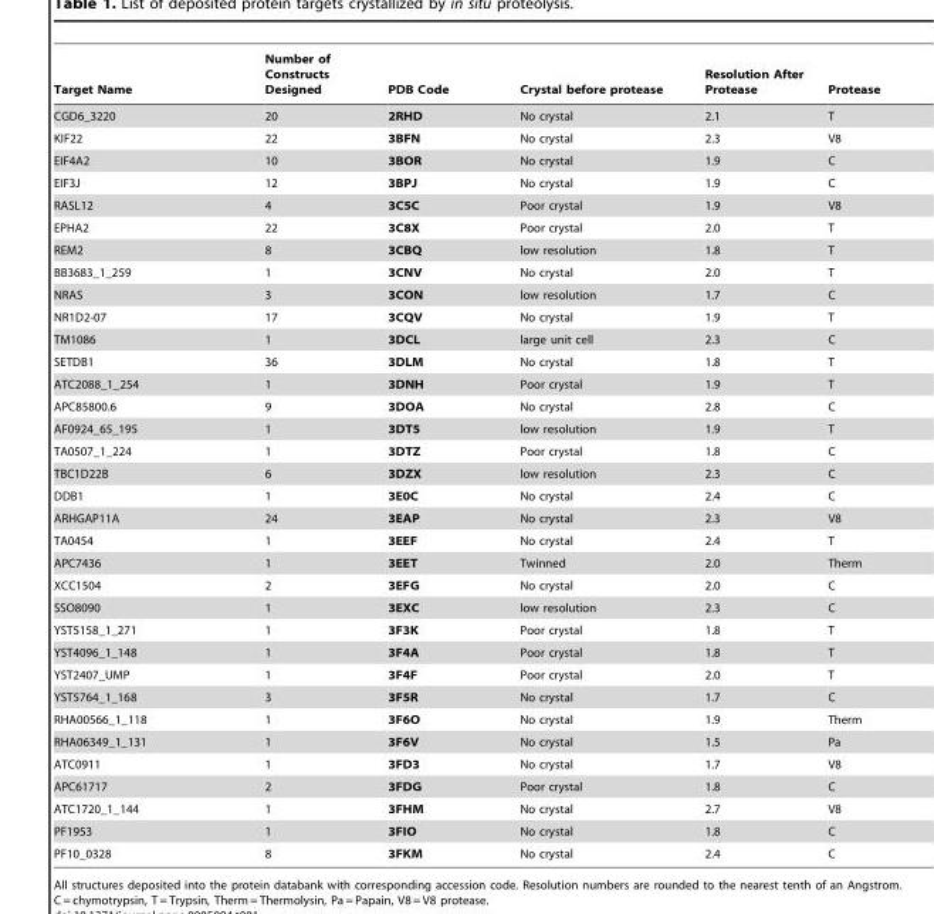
<table><thead><tr><td>Target Name</td><td>Number of Constructs Designed</td><td>PDB Code</td><td>Crystal before protease</td><td>Resolution After Protease</td><td>Protease</td></tr></thead><tbody><tr><td>CGD6_3220</td><td>20</td><td>2RHD</td><td>No crystal</td><td>2.1</td><td>T</td></tr><tr><td>KIF22</td><td>22</td><td>3BFN</td><td>No crystal</td><td>2.3</td><td>V8</td></tr><tr><td>EIF4A2</td><td>10</td><td>3BOR</td><td>No crystal</td><td>1.9</td><td>C</td></tr><tr><td>EIF3J</td><td>12</td><td>3BPJ</td><td>No crystal</td><td>1.9</td><td>C</td></tr><tr><td>RASL12</td><td>4</td><td>3C5C</td><td>Poor crystal</td><td>1.9</td><td>V8</td></tr><tr><td>EPHA2</td><td>22</td><td>3C8X</td><td>Poor crystal</td><td>2.0</td><td>T</td></tr><tr><td>REM2</td><td>8</td><td>3CBQ</td><td>low resolution</td><td>1.8</td><td>T</td></tr><tr><td>BB3683_1_259</td><td>1</td><td>3CNV</td><td>No crystal</td><td>2.0</td><td>T</td></tr><tr><td>NRAS</td><td>3</td><td>3CON</td><td>low resolution</td><td>1.7</td><td>C</td></tr><tr><td>NR1D2-07</td><td>17</td><td>3CQV</td><td>No crystal</td><td>1.9</td><td>T</td></tr><tr><td>TM1086</td><td>1</td><td>3DCL</td><td>large unit cell</td><td>2.3</td><td>C</td></tr><tr><td>SETDB1</td><td>36</td><td>3DLM</td><td>No crystal</td><td>1.8</td><td>T</td></tr><tr><td>ATC2088_1_254</td><td>1</td><td>3DNH</td><td>Poor crystal</td><td>1.9</td><td>T</td></tr><tr><td>APC85800.6</td><td>9</td><td>3DOA</td><td>No crystal</td><td>2.8</td><td>C</td></tr><tr><td>AF0924_65_195</td><td>1</td><td>3DT5</td><td>low resolution</td><td>1.9</td><td>T</td></tr><tr><td>TA0507_1_224</td><td>1</td><td>3DTZ</td><td>Poor crystal</td><td>1.8</td><td>C</td></tr><tr><td>TBC1D22B</td><td>6</td><td>3DZX</td><td>low resolution</td><td>2.3</td><td>C</td></tr><tr><td>DDB1</td><td>1</td><td>3E0C</td><td>No crystal</td><td>2.4</td><td>C</td></tr><tr><td>ARHGAP11A</td><td>24</td><td>3EAP</td><td>No crystal</td><td>2.3</td><td>V8</td></tr><tr><td>TA0454</td><td>1</td><td>3EEF</td><td>No crystal</td><td>2.4</td><td>T</td></tr><tr><td>APC7436</td><td>1</td><td>3EET</td><td>Twinned</td><td>2.0</td><td>Therm</td></tr><tr><td>XCC1504</td><td>2</td><td>3EFG</td><td>No crystal</td><td>2.0</td><td>C</td></tr><tr><td>SSO8090</td><td>1</td><td>3EXC</td><td>low resolution</td><td>2.3</td><td>C</td></tr><tr><td>YST5158_1_271</td><td>1</td><td>3F3K</td><td>Poor crystal</td><td>1.8</td><td>T</td></tr><tr><td>YST4096_1_148</td><td>1</td><td>3F4A</td><td>Poor crystal</td><td>1.8</td><td>T</td></tr><tr><td>YST2407_UMP</td><td>1</td><td>3F4F</td><td>Poor crystal</td><td>2.0</td><td>T</td></tr><tr><td>YST5764_1_168</td><td>3</td><td>3F5R</td><td>No crystal</td><td>1.7</td><td>C</td></tr><tr><td>RHA00566_1_118</td><td>1</td><td>3F6O</td><td>No crystal</td><td>1.9</td><td>Therm</td></tr><tr><td>RHA06349_1_131</td><td>1</td><td>3F6V</td><td>No crystal</td><td>1.5</td><td>Pa</td></tr><tr><td>ATC0911</td><td>1</td><td>3FD3</td><td>No crystal</td><td>1.7</td><td>V8</td></tr><tr><td>APC61717</td><td>2</td><td>3FDG</td><td>Poor crystal</td><td>1.8</td><td>C</td></tr><tr><td>ATC1720_1_144</td><td>1</td><td>3FHM</td><td>No crystal</td><td>2.7</td><td>V8</td></tr><tr><td>PF1953</td><td>1</td><td>3FIO</td><td>No crystal</td><td>1.8</td><td>C</td></tr><tr><td>PF10_0328</td><td>8</td><td>3FKM</td><td>No crystal</td><td>2.4</td><td>C</td></tr></tbody></table>